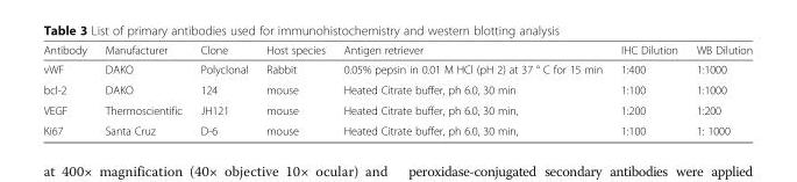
<table><thead><tr><td>Antibody</td><td>Manufacturer</td><td>Clone</td><td>Host species</td><td>Antigen retriever</td><td>IHC Dilution</td><td>WB Dilution</td></tr></thead><tbody><tr><td>vWF</td><td>DAKO</td><td>Polyclonal</td><td>Rabbit</td><td>0.05% pepsin in 0.01 M HCl (pH 2) at 37 ° C for 15 min</td><td>1:400</td><td>1:1000</td></tr><tr><td>bcl-2</td><td>DAKO</td><td>124</td><td>mouse</td><td>Heated Citrate buffer, ph 6.0, 30 min</td><td>1:100</td><td>1:1000</td></tr><tr><td>VEGF</td><td>Thermoscientific</td><td>JH121</td><td>mouse</td><td>Heated Citrate buffer, ph 6.0, 30 min,</td><td>1:200</td><td>1:200</td></tr><tr><td>Ki67</td><td>Santa Cruz</td><td>D-6</td><td>mouse</td><td>Heated Citrate buffer, ph 6.0, 30 min,</td><td>1:100</td><td>1: 1000</td></tr></tbody></table>